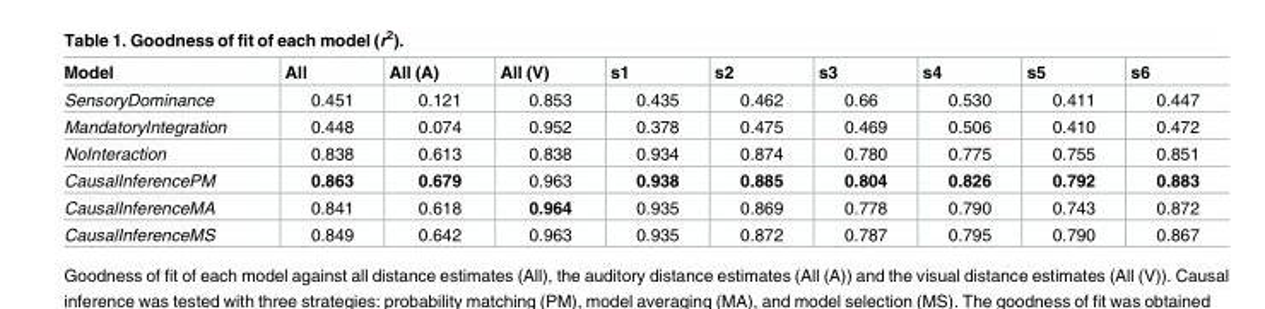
<table><thead><tr><td>Model</td><td>All</td><td>All (A)</td><td>All (V)</td><td>s1</td><td>s2</td><td>s3</td><td>s4</td><td>s5</td><td>s6</td></tr></thead><tbody><tr><td>SensoryDominance</td><td>0.451</td><td>0.121</td><td>0.853</td><td>0.435</td><td>0.462</td><td>0.66</td><td>0.530</td><td>0.411</td><td>0.447</td></tr><tr><td>MandatoryIntegration</td><td>0.448</td><td>0.074</td><td>0.952</td><td>0.378</td><td>0.475</td><td>0.469</td><td>0.506</td><td>0.410</td><td>0.472</td></tr><tr><td>NoInteraction</td><td>0.838</td><td>0.613</td><td>0.838</td><td>0.934</td><td>0.874</td><td>0.780</td><td>0.775</td><td>0.755</td><td>0.851</td></tr><tr><td>CausalInferencePM</td><td>0.863</td><td>0.679</td><td>0.963</td><td>0.938</td><td>0.885</td><td>0.804</td><td>0.826</td><td>0.792</td><td>0.883</td></tr><tr><td>CausalInferenceMA</td><td>0.841</td><td>0.618</td><td>0.964</td><td>0.935</td><td>0.869</td><td>0.778</td><td>0.790</td><td>0.743</td><td>0.872</td></tr><tr><td>CausalInferenceMS</td><td>0.849</td><td>0.642</td><td>0.963</td><td>0.935</td><td>0.872</td><td>0.787</td><td>0.795</td><td>0.790</td><td>0.867</td></tr></tbody></table>